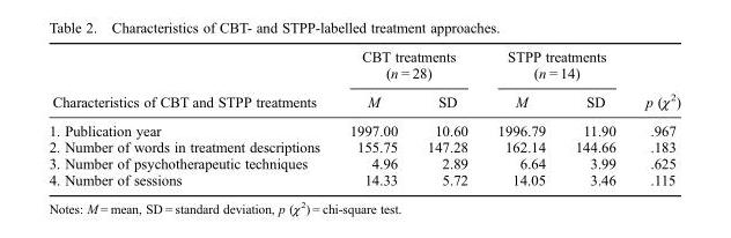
<table><thead><tr><td rowspan="2">Characteristics of CBT and STPP treatments</td><td colspan="2">CBT treatments (n = 28)</td><td colspan="2">STPP treatments (n = 14)</td><td rowspan="2">p (χ<sup>2</sup>)</td></tr><tr><td>M</td><td>SD</td><td>M</td><td>SD</td></tr></thead><tbody><tr><td>1. Publication year</td><td>1997.00</td><td>10.60</td><td>1996.79</td><td>11.90</td><td>.967</td></tr><tr><td>2. Number of words in treatment descriptions</td><td>155.75</td><td>147.28</td><td>162.14</td><td>144.66</td><td>.183</td></tr><tr><td>3. Number of psychotherapeutic techniques</td><td>4.96</td><td>2.89</td><td>6.64</td><td>3.99</td><td>.625</td></tr><tr><td>4. Number of sessions</td><td>14.33</td><td>5.72</td><td>14.05</td><td>3.46</td><td>.115</td></tr></tbody></table>